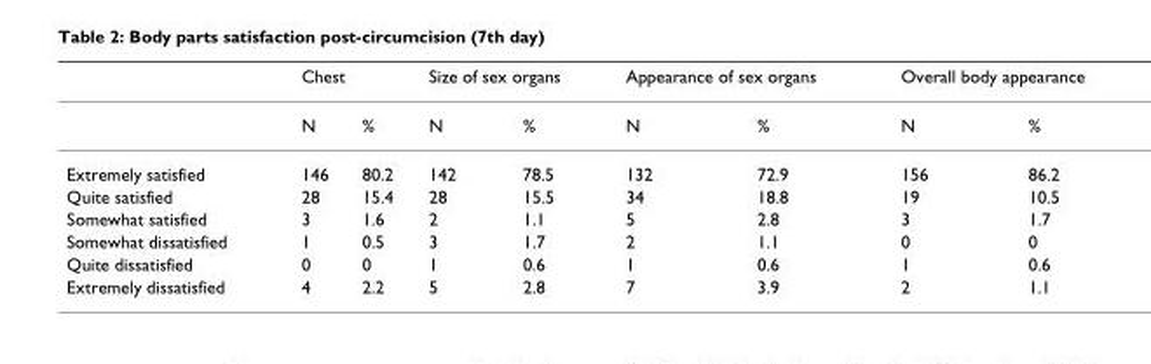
<table><thead><tr><td rowspan="2"></td><td colspan="2">Chest</td><td colspan="2">Size of sex organs</td><td colspan="2">Appearance of sex organs</td><td colspan="2">Overall body appearance</td></tr><tr><td>N</td><td>%</td><td>N</td><td>%</td><td>N</td><td>%</td><td>N</td><td>%</td></tr></thead><tbody><tr><td>Extremely satisfied</td><td>146</td><td>80.2</td><td>142</td><td>78.5</td><td>132</td><td>72.9</td><td>156</td><td>86.2</td></tr><tr><td>Quite satisfied</td><td>28</td><td>15.4</td><td>28</td><td>15.5</td><td>34</td><td>18.8</td><td>19</td><td>10.5</td></tr><tr><td>Somewhat satisfied</td><td>3</td><td>1.6</td><td>2</td><td>1.1</td><td>5</td><td>2.8</td><td>3</td><td>1.7</td></tr><tr><td>Somewhat dissatisfied</td><td>1</td><td>0.5</td><td>3</td><td>1.7</td><td>2</td><td>1.1</td><td>0</td><td>0</td></tr><tr><td>Quite dissatisfied</td><td>0</td><td>0</td><td>1</td><td>0.6</td><td>1</td><td>0.6</td><td>1</td><td>0.6</td></tr><tr><td>Extremely dissatisfied</td><td>4</td><td>2.2</td><td>5</td><td>2.8</td><td>7</td><td>3.9</td><td>2</td><td>1.1</td></tr></tbody></table>